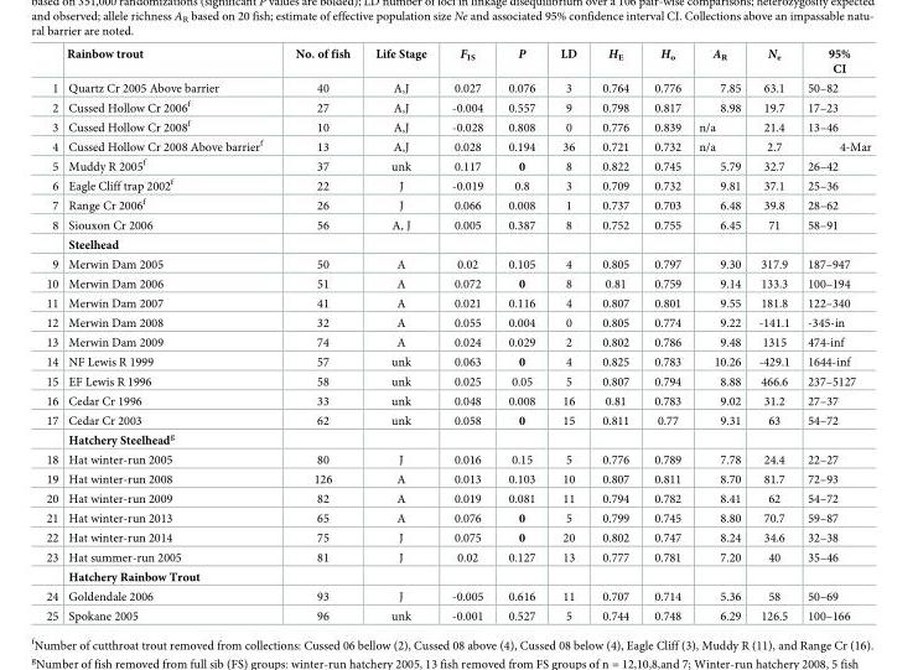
<table><thead><tr><td></td><td>Rainbow trout</td><td>No. of fish</td><td>Life Stage</td><td>F<sub>IS</sub></td><td>P</td><td>LD</td><td>H<sub>E</sub></td><td>H<sub>o</sub></td><td>A<sub>R</sub></td><td>N<sub>e</sub></td><td>95% CI</td></tr></thead><tbody><tr><td>1</td><td>Quartz Cr 2005 Above barrier</td><td>40</td><td>A,J</td><td>0.027</td><td>0.076</td><td>3</td><td>0.764</td><td>0.776</td><td>7.85</td><td>63.1</td><td>50–82</td></tr><tr><td>2</td><td>Cussed Hollow Cr 2006<sup>f</sup></td><td>27</td><td>A,J</td><td>-0.004</td><td>0.557</td><td>9</td><td>0.798</td><td>0.817</td><td>8.98</td><td>19.7</td><td>17–23</td></tr><tr><td>3</td><td>Cussed Hollow Cr 2008<sup>f</sup></td><td>10</td><td>A,J</td><td>-0.028</td><td>0.808</td><td>0</td><td>0.776</td><td>0.839</td><td>n/a</td><td>21.4</td><td>13–46</td></tr><tr><td>4</td><td>Cussed Hollow Cr 2008 Above barrier<sup>f</sup></td><td>13</td><td>A,J</td><td>0.028</td><td>0.194</td><td>36</td><td>0.721</td><td>0.732</td><td>n/a</td><td>2.7</td><td>4-Mar</td></tr><tr><td>5</td><td>Muddy R 2005<sup>f</sup></td><td>37</td><td>unk</td><td>0.117</td><td>0</td><td>8</td><td>0.822</td><td>0.745</td><td>5.79</td><td>32.7</td><td>26–42</td></tr><tr><td>6</td><td>Eagle Cliff trap 2002<sup>f</sup></td><td>22</td><td>J</td><td>-0.019</td><td>0.8</td><td>3</td><td>0.709</td><td>0.732</td><td>9.81</td><td>37.1</td><td>25–36</td></tr><tr><td>7</td><td>Range Cr 2006<sup>f</sup></td><td>26</td><td>J</td><td>0.066</td><td>0.008</td><td>1</td><td>0.737</td><td>0.703</td><td>6.48</td><td>39.8</td><td>28–62</td></tr><tr><td rowspan="2">8</td><td>Siouxon Cr 2006</td><td>56</td><td>A, J</td><td>0.005</td><td>0.387</td><td>8</td><td>0.752</td><td>0.755</td><td>6.45</td><td>71</td><td>58–91</td></tr><tr><td>Steelhead</td><td></td><td></td><td></td><td></td><td></td><td></td><td></td><td></td><td></td><td></td></tr><tr><td>9</td><td>Merwin Dam 2005</td><td>50</td><td>A</td><td>0.02</td><td>0.105</td><td>4</td><td>0.805</td><td>0.797</td><td>9.30</td><td>317.9</td><td>187–947</td></tr><tr><td>10</td><td>Merwin Dam 2006</td><td>51</td><td>A</td><td>0.072</td><td>0</td><td>8</td><td>0.81</td><td>0.759</td><td>9.14</td><td>133.3</td><td>100–194</td></tr><tr><td>11</td><td>Merwin Dam 2007</td><td>41</td><td>A</td><td>0.021</td><td>0.116</td><td>4</td><td>0.807</td><td>0.801</td><td>9.55</td><td>181.8</td><td>122–340</td></tr><tr><td>12</td><td>Merwin Dam 2008</td><td>32</td><td>A</td><td>0.055</td><td>0.004</td><td>0</td><td>0.805</td><td>0.774</td><td>9.22</td><td>-141.1</td><td>-345-in</td></tr><tr><td>13</td><td>Merwin Dam 2009</td><td>74</td><td>A</td><td>0.024</td><td>0.029</td><td>2</td><td>0.802</td><td>0.786</td><td>9.48</td><td>1315</td><td>474-inf</td></tr><tr><td>14</td><td>NF Lewis R 1999</td><td>57</td><td>unk</td><td>0.063</td><td>0</td><td>4</td><td>0.825</td><td>0.783</td><td>10.26</td><td>-429.1</td><td>1644-inf</td></tr><tr><td>15</td><td>EF Lewis R 1996</td><td>58</td><td>unk</td><td>0.025</td><td>0.05</td><td>5</td><td>0.807</td><td>0.794</td><td>8.88</td><td>466.6</td><td>237–5127</td></tr><tr><td>16</td><td>Cedar Cr 1996</td><td>33</td><td>unk</td><td>0.048</td><td>0.008</td><td>16</td><td>0.81</td><td>0.783</td><td>9.02</td><td>31.2</td><td>27–37</td></tr><tr><td rowspan="2">17</td><td>Cedar Cr 2003</td><td>62</td><td>unk</td><td>0.058</td><td>0</td><td>15</td><td>0.811</td><td>0.77</td><td>9.31</td><td>63</td><td>54–72</td></tr><tr><td>Hatchery Steelhead<sup>g</sup></td><td></td><td></td><td></td><td></td><td></td><td></td><td></td><td></td><td></td><td></td></tr><tr><td>18</td><td>Hat winter-run 2005</td><td>80</td><td>J</td><td>0.016</td><td>0.15</td><td>5</td><td>0.776</td><td>0.789</td><td>7.78</td><td>24.4</td><td>22–27</td></tr><tr><td>19</td><td>Hat winter-run 2008</td><td>126</td><td>A</td><td>0.013</td><td>0.103</td><td>10</td><td>0.807</td><td>0.811</td><td>8.70</td><td>81.7</td><td>72–93</td></tr><tr><td>20</td><td>Hat winter-run 2009</td><td>82</td><td>A</td><td>0.019</td><td>0.081</td><td>11</td><td>0.794</td><td>0.782</td><td>8.41</td><td>62</td><td>54–72</td></tr><tr><td>21</td><td>Hat winter-run 2013</td><td>65</td><td>A</td><td>0.076</td><td>0</td><td>5</td><td>0.799</td><td>0.745</td><td>8.80</td><td>70.7</td><td>59–87</td></tr><tr><td>22</td><td>Hat winter-run 2014</td><td>75</td><td>J</td><td>0.075</td><td>0</td><td>20</td><td>0.802</td><td>0.747</td><td>8.24</td><td>34.6</td><td>32–38</td></tr><tr><td rowspan="2">23</td><td>Hat summer-run 2005</td><td>81</td><td>J</td><td>0.02</td><td>0.127</td><td>13</td><td>0.777</td><td>0.781</td><td>7.20</td><td>40</td><td>35–46</td></tr><tr><td>Hatchery Rainbow Trout</td><td></td><td></td><td></td><td></td><td></td><td></td><td></td><td></td><td></td><td></td></tr><tr><td>24</td><td>Goldendale 2006</td><td>93</td><td>J</td><td>-0.005</td><td>0.616</td><td>11</td><td>0.707</td><td>0.714</td><td>5.36</td><td>58</td><td>50–69</td></tr><tr><td>25</td><td>Spokane 2005</td><td>96</td><td>unk</td><td>-0.001</td><td>0.527</td><td>5</td><td>0.744</td><td>0.748</td><td>6.29</td><td>126.5</td><td>100–166</td></tr></tbody></table>